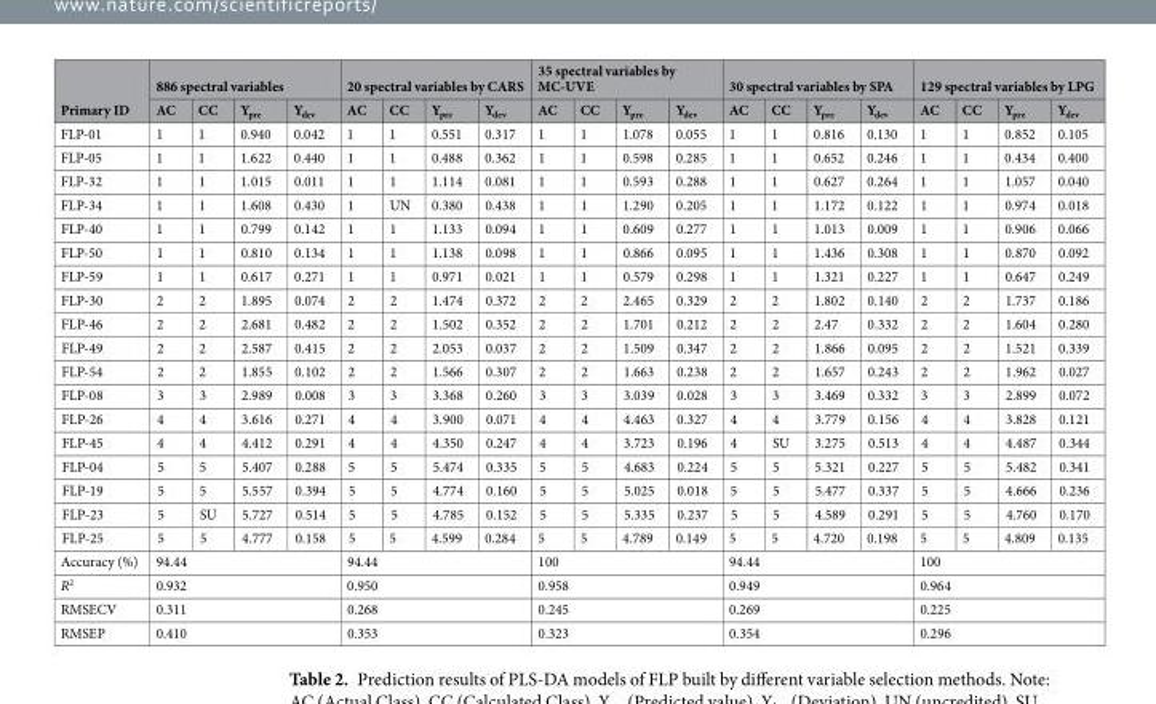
<table><thead><tr><td rowspan="2">Primary ID</td><td colspan="4">886 spectral variables</td><td colspan="4">20 spectral variables by CARS</td><td colspan="4">35 spectral variables by MC-UVE</td><td colspan="4">30 spectral variables by SPA</td><td colspan="4">129 spectral variables by LPG</td></tr><tr><td>AC</td><td>CC</td><td>Y<sub>pre</sub></td><td>Y<sub>dev</sub></td><td>AC</td><td>CC</td><td>Y<sub>pre</sub></td><td>Y<sub>dev</sub></td><td>AC</td><td>CC</td><td>Y<sub>pre</sub></td><td>Y<sub>dev</sub></td><td>AC</td><td>CC</td><td>Y<sub>pre</sub></td><td>Y<sub>dev</sub></td><td>AC</td><td>CC</td><td>Y<sub>pre</sub></td><td>Y<sub>dev</sub></td></tr></thead><tbody><tr><td>FLP-01</td><td>1</td><td>1</td><td>0.940</td><td>0.042</td><td>1</td><td>1</td><td>0.551</td><td>0.317</td><td>1</td><td>1</td><td>1.078</td><td>0.055</td><td>1</td><td>1</td><td>0.816</td><td>0.130</td><td>1</td><td>1</td><td>0.852</td><td>0.105</td></tr><tr><td>FLP-05</td><td>1</td><td>1</td><td>1.622</td><td>0.440</td><td>1</td><td>1</td><td>0.488</td><td>0.362</td><td>1</td><td>1</td><td>0.598</td><td>0.285</td><td>1</td><td>1</td><td>0.652</td><td>0.246</td><td>1</td><td>1</td><td>0.434</td><td>0.400</td></tr><tr><td>FLP-32</td><td>1</td><td>1</td><td>1.015</td><td>0.011</td><td>1</td><td>1</td><td>1.114</td><td>0.081</td><td>1</td><td>1</td><td>0.593</td><td>0.288</td><td>1</td><td>1</td><td>0.627</td><td>0.264</td><td>1</td><td>1</td><td>1.057</td><td>0.040</td></tr><tr><td>FLP-34</td><td>1</td><td>1</td><td>1.608</td><td>0.430</td><td>1</td><td>UN</td><td>0.380</td><td>0.438</td><td>1</td><td>1</td><td>1.290</td><td>0.205</td><td>1</td><td>1</td><td>1.172</td><td>0.122</td><td>1</td><td>1</td><td>0.974</td><td>0.018</td></tr><tr><td>FLP-40</td><td>1</td><td>1</td><td>0.799</td><td>0.142</td><td>1</td><td>1</td><td>1.133</td><td>0.094</td><td>1</td><td>1</td><td>0.609</td><td>0.277</td><td>1</td><td>1</td><td>1.013</td><td>0.009</td><td>1</td><td>1</td><td>0.906</td><td>0.066</td></tr><tr><td>FLP-50</td><td>1</td><td>1</td><td>0.810</td><td>0.134</td><td>1</td><td>1</td><td>1.138</td><td>0.098</td><td>1</td><td>1</td><td>0.866</td><td>0.095</td><td>1</td><td>1</td><td>1.436</td><td>0.308</td><td>1</td><td>1</td><td>0.870</td><td>0.092</td></tr><tr><td>FLP-59</td><td>1</td><td>1</td><td>0.617</td><td>0.271</td><td>1</td><td>1</td><td>0.971</td><td>0.021</td><td>1</td><td>1</td><td>0.579</td><td>0.298</td><td>1</td><td>1</td><td>1.321</td><td>0.227</td><td>1</td><td>1</td><td>0.647</td><td>0.249</td></tr><tr><td>FLP-30</td><td>2</td><td>2</td><td>1.895</td><td>0.074</td><td>2</td><td>2</td><td>1.474</td><td>0.372</td><td>2</td><td>2</td><td>2.465</td><td>0.329</td><td>2</td><td>2</td><td>1.802</td><td>0.140</td><td>2</td><td>2</td><td>1.737</td><td>0.186</td></tr><tr><td>FLP-46</td><td>2</td><td>2</td><td>2.681</td><td>0.482</td><td>2</td><td>2</td><td>1.502</td><td>0.352</td><td>2</td><td>2</td><td>1.701</td><td>0.212</td><td>2</td><td>2</td><td>2.47</td><td>0.332</td><td>2</td><td>2</td><td>1.604</td><td>0.280</td></tr><tr><td>FLP-49</td><td>2</td><td>2</td><td>2.587</td><td>0.415</td><td>2</td><td>2</td><td>2.053</td><td>0.037</td><td>2</td><td>2</td><td>1.509</td><td>0.347</td><td>2</td><td>2</td><td>1.866</td><td>0.095</td><td>2</td><td>2</td><td>1.521</td><td>0.339</td></tr><tr><td>FLP-54</td><td>2</td><td>2</td><td>1.855</td><td>0.102</td><td>2</td><td>2</td><td>1.566</td><td>0.307</td><td>2</td><td>2</td><td>1.663</td><td>0.238</td><td>2</td><td>2</td><td>1.657</td><td>0.243</td><td>2</td><td>2</td><td>1.962</td><td>0.027</td></tr><tr><td>FLP-08</td><td>3</td><td>3</td><td>2.989</td><td>0.008</td><td>3</td><td>3</td><td>3.368</td><td>0.260</td><td>3</td><td>3</td><td>3.039</td><td>0.028</td><td>3</td><td>3</td><td>3.469</td><td>0.332</td><td>3</td><td>3</td><td>2.899</td><td>0.072</td></tr><tr><td>FLP-26</td><td>4</td><td>4</td><td>3.616</td><td>0.271</td><td>4</td><td>4</td><td>3.900</td><td>0.071</td><td>4</td><td>4</td><td>4.463</td><td>0.327</td><td>4</td><td>4</td><td>3.779</td><td>0.156</td><td>4</td><td>4</td><td>3.828</td><td>0.121</td></tr><tr><td>FLP-45</td><td>4</td><td>4</td><td>4.412</td><td>0.291</td><td>4</td><td>4</td><td>4.350</td><td>0.247</td><td>4</td><td>4</td><td>3.723</td><td>0.196</td><td>4</td><td>SU</td><td>3.275</td><td>0.513</td><td>4</td><td>4</td><td>4.487</td><td>0.344</td></tr><tr><td>FLP-04</td><td>5</td><td>5</td><td>5.407</td><td>0.288</td><td>5</td><td>5</td><td>5.474</td><td>0.335</td><td>5</td><td>5</td><td>4.683</td><td>0.224</td><td>5</td><td>5</td><td>5.321</td><td>0.227</td><td>5</td><td>5</td><td>5.482</td><td>0.341</td></tr><tr><td>FLP-19</td><td>5</td><td>5</td><td>5.557</td><td>0.394</td><td>5</td><td>5</td><td>4.774</td><td>0.160</td><td>5</td><td>5</td><td>5.025</td><td>0.018</td><td>5</td><td>5</td><td>5.477</td><td>0.337</td><td>5</td><td>5</td><td>4.666</td><td>0.236</td></tr><tr><td>FLP-23</td><td>5</td><td>SU</td><td>5.727</td><td>0.514</td><td>5</td><td>5</td><td>4.785</td><td>0.152</td><td>5</td><td>5</td><td>5.335</td><td>0.237</td><td>5</td><td>5</td><td>4.589</td><td>0.291</td><td>5</td><td>5</td><td>4.760</td><td>0.170</td></tr><tr><td>FLP-25</td><td>5</td><td>5</td><td>4.777</td><td>0.158</td><td>5</td><td>5</td><td>4.599</td><td>0.284</td><td>5</td><td>5</td><td>4.789</td><td>0.149</td><td>5</td><td>5</td><td>4.720</td><td>0.198</td><td>5</td><td>5</td><td>4.809</td><td>0.135</td></tr><tr><td>Accuracy (%)</td><td colspan="4">94.44</td><td colspan="4">94.44</td><td colspan="4">100</td><td colspan="4">94.44</td><td colspan="4">100</td></tr><tr><td>R<sup>2</sup></td><td colspan="4">0.932</td><td colspan="4">0.950</td><td colspan="4">0.958</td><td colspan="4">0.949</td><td colspan="4">0.964</td></tr><tr><td>RMSECV</td><td colspan="4">0.311</td><td colspan="4">0.268</td><td colspan="4">0.245</td><td colspan="4">0.269</td><td colspan="4">0.225</td></tr><tr><td>RMSEP</td><td colspan="4">0.410</td><td colspan="4">0.353</td><td colspan="4">0.323</td><td colspan="4">0.354</td><td colspan="4">0.296</td></tr></tbody></table>